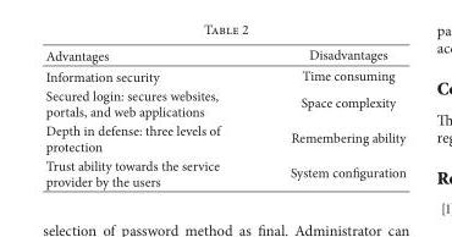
<table><thead><tr><td>Advantages</td><td>Disadvantages</td></tr></thead><tbody><tr><td>Information security</td><td>Time consuming</td></tr><tr><td>Secured login: secures websites, portals, and web applications</td><td>Space complexity</td></tr><tr><td>Depth in defense: three levels of protection</td><td>Remembering ability</td></tr><tr><td>Trust ability towards the service provider by the users</td><td>System configuration</td></tr></tbody></table>